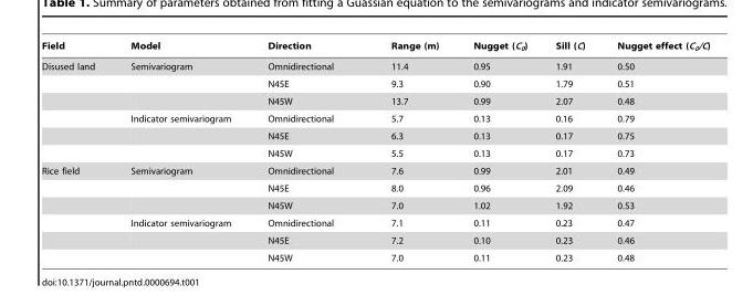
<table><thead><tr><td>Field</td><td>Model</td><td>Direction</td><td>Range (m)</td><td>Nugget (C<sub>0</sub>)</td><td>Sill (C)</td><td>Nugget effect (C<sub>0</sub>/C)</td></tr></thead><tbody><tr><td rowspan="6">Disused land</td><td>Semivariogram</td><td>Omnidirectional</td><td>11.4</td><td>0.95</td><td>1.91</td><td>0.50</td></tr><tr><td></td><td>N45E</td><td>9.3</td><td>0.90</td><td>1.79</td><td>0.51</td></tr><tr><td></td><td>N45W</td><td>13.7</td><td>0.99</td><td>2.07</td><td>0.48</td></tr><tr><td>Indicator semivariogram</td><td>Omnidirectional</td><td>5.7</td><td>0.13</td><td>0.16</td><td>0.79</td></tr><tr><td></td><td>N45E</td><td>6.3</td><td>0.13</td><td>0.17</td><td>0.75</td></tr><tr><td></td><td>N45W</td><td>5.5</td><td>0.13</td><td>0.17</td><td>0.73</td></tr><tr><td rowspan="6">Rice field</td><td>Semivariogram</td><td>Omnidirectional</td><td>7.6</td><td>0.99</td><td>2.01</td><td>0.49</td></tr><tr><td></td><td>N45E</td><td>8.0</td><td>0.96</td><td>2.09</td><td>0.46</td></tr><tr><td></td><td>N45W</td><td>7.0</td><td>1.02</td><td>1.92</td><td>0.53</td></tr><tr><td>Indicator semivariogram</td><td>Omnidirectional</td><td>7.1</td><td>0.11</td><td>0.23</td><td>0.47</td></tr><tr><td></td><td>N45E</td><td>7.2</td><td>0.10</td><td>0.23</td><td>0.46</td></tr><tr><td></td><td>N45W</td><td>7.0</td><td>0.11</td><td>0.23</td><td>0.48</td></tr></tbody></table>